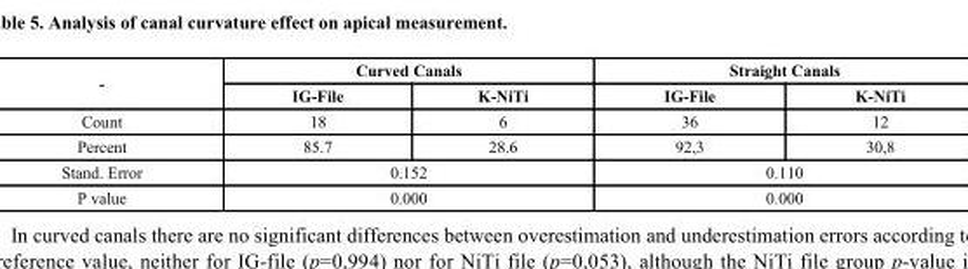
<table><thead><tr><td rowspan="2">-</td><td colspan="2">Curved Canals</td><td colspan="2">Straight Canals</td></tr><tr><td>IG-File</td><td>K-NiTi</td><td>IG-File</td><td>K-NiTi</td></tr></thead><tbody><tr><td>Count</td><td>18</td><td>6</td><td>36</td><td>12</td></tr><tr><td>Percent</td><td>85.7</td><td>28.6</td><td>92,3</td><td>30,8</td></tr><tr><td>Stand. Error</td><td colspan="2">0.152</td><td colspan="2">0.110</td></tr><tr><td>P value</td><td colspan="2">0.000</td><td colspan="2">0.000</td></tr></tbody></table>